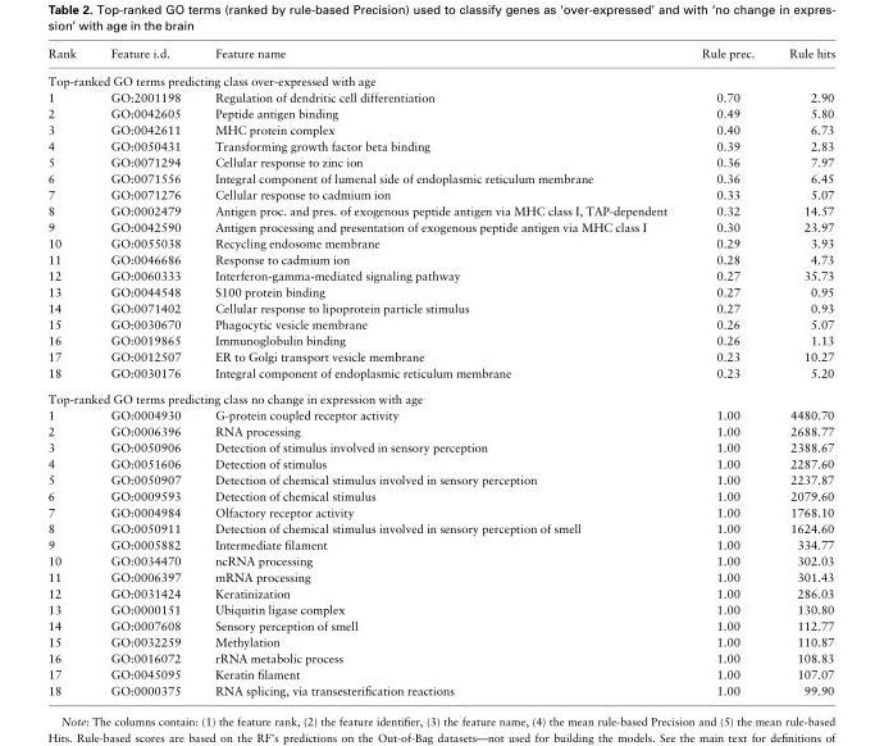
<table><thead><tr><td>Rank</td><td>Feature i.d.</td><td>Feature name</td><td>Rule prec.</td><td>Rule hits</td></tr></thead><tbody><tr><td colspan="5">Top-ranked GO terms predicting class over-expressed with age</td></tr><tr><td>1</td><td>GO:2001198</td><td>Regulation of dendritic cell differentiation</td><td>0.70</td><td>2.90</td></tr><tr><td>2</td><td>GO:0042605</td><td>Peptide antigen binding</td><td>0.49</td><td>5.80</td></tr><tr><td>3</td><td>GO:0042611</td><td>MHC protein complex</td><td>0.40</td><td>6.73</td></tr><tr><td>4</td><td>GO:0050431</td><td>Transforming growth factor beta binding</td><td>0.39</td><td>2.83</td></tr><tr><td>5</td><td>GO:0071294</td><td>Cellular response to zinc ion</td><td>0.36</td><td>7.97</td></tr><tr><td>6</td><td>GO:0071556</td><td>Integral component of lumenal side of endoplasmic reticulum membrane</td><td>0.36</td><td>6.45</td></tr><tr><td>7</td><td>GO:0071276</td><td>Cellular response to cadmium ion</td><td>0.33</td><td>5.07</td></tr><tr><td>8</td><td>GO:0002479</td><td>Antigen proc. and pres. of exogenous peptide antigen via MHC class I, TAP-dependent</td><td>0.32</td><td>14.57</td></tr><tr><td>9</td><td>GO:0042590</td><td>Antigen processing and presentation of exogenous peptide antigen via MHC class I</td><td>0.30</td><td>23.97</td></tr><tr><td>10</td><td>GO:0055038</td><td>Recycling endosome membrane</td><td>0.29</td><td>3.93</td></tr><tr><td>11</td><td>GO:0046686</td><td>Response to cadmium ion</td><td>0.28</td><td>4.73</td></tr><tr><td>12</td><td>GO:0060333</td><td>Interferon-gamma-mediated signaling pathway</td><td>0.27</td><td>35.73</td></tr><tr><td>13</td><td>GO:0044548</td><td>S100 protein binding</td><td>0.27</td><td>0.95</td></tr><tr><td>14</td><td>GO:0071402</td><td>Cellular response to lipoprotein particle stimulus</td><td>0.27</td><td>0.93</td></tr><tr><td>15</td><td>GO:0030670</td><td>Phagocytic vesicle membrane</td><td>0.26</td><td>5.07</td></tr><tr><td>16</td><td>GO:0019865</td><td>Immunoglobulin binding</td><td>0.26</td><td>1.13</td></tr><tr><td>17</td><td>GO:0012507</td><td>ER to Golgi transport vesicle membrane</td><td>0.23</td><td>10.27</td></tr><tr><td>18</td><td>GO:0030176</td><td>Integral component of endoplasmic reticulum membrane</td><td>0.23</td><td>5.20</td></tr><tr><td colspan="5">Top-ranked GO terms predicting class no change in expression with age</td></tr><tr><td>1</td><td>GO:0004930</td><td>G-protein coupled receptor activity</td><td>1.00</td><td>4480.70</td></tr><tr><td>2</td><td>GO:0006396</td><td>RNA processing</td><td>1.00</td><td>2688.77</td></tr><tr><td>3</td><td>GO:0050906</td><td>Detection of stimulus involved in sensory perception</td><td>1.00</td><td>2388.67</td></tr><tr><td>4</td><td>GO:0051606</td><td>Detection of stimulus</td><td>1.00</td><td>2287.60</td></tr><tr><td>5</td><td>GO:0050907</td><td>Detection of chemical stimulus involved in sensory perception</td><td>1.00</td><td>2237.87</td></tr><tr><td>6</td><td>GO:0009593</td><td>Detection of chemical stimulus</td><td>1.00</td><td>2079.60</td></tr><tr><td>7</td><td>GO:0004984</td><td>Olfactory receptor activity</td><td>1.00</td><td>1768.10</td></tr><tr><td>8</td><td>GO:0050911</td><td>Detection of chemical stimulus involved in sensory perception of smell</td><td>1.00</td><td>1624.60</td></tr><tr><td>9</td><td>GO:0005882</td><td>Intermediate filament</td><td>1.00</td><td>334.77</td></tr><tr><td>10</td><td>GO:0034470</td><td>ncRNA processing</td><td>1.00</td><td>302.03</td></tr><tr><td>11</td><td>GO:0006397</td><td>mRNA processing</td><td>1.00</td><td>301.43</td></tr><tr><td>12</td><td>GO:0031424</td><td>Keratinization</td><td>1.00</td><td>286.03</td></tr><tr><td>13</td><td>GO:0000151</td><td>Ubiquitin ligase complex</td><td>1.00</td><td>130.80</td></tr><tr><td>14</td><td>GO:0007608</td><td>Sensory perception of smell</td><td>1.00</td><td>112.77</td></tr><tr><td>15</td><td>GO:0032259</td><td>Methylation</td><td>1.00</td><td>110.87</td></tr><tr><td>16</td><td>GO:0016072</td><td>rRNA metabolic process</td><td>1.00</td><td>108.83</td></tr><tr><td>17</td><td>GO:0045095</td><td>Keratin filament</td><td>1.00</td><td>107.07</td></tr><tr><td>18</td><td>GO:0000375</td><td>RNA splicing, via transesterification reactions</td><td>1.00</td><td>99.90</td></tr></tbody></table>